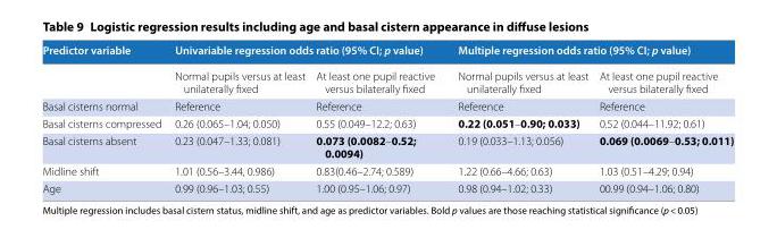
<table><thead><tr><td rowspan="2">Predictor variable</td><td colspan="2">Univariable regression odds ratio (95% CI; p value)</td><td colspan="2">Multiple regression odds ratio (95% CI; p value)</td></tr><tr><td>Normal pupils versus at least unilaterally fixed</td><td>At least one pupil reactive versus bilaterally fixed</td><td>Normal pupils versus at least unilaterally fixed</td><td>At least one pupil reactive versus bilaterally fixed</td></tr></thead><tbody><tr><td>Basal cisterns normal</td><td>Reference</td><td>Reference</td><td>Reference</td><td>Reference</td></tr><tr><td>Basal cisterns compressed</td><td>0.26 (0.065–1.04; 0.050)</td><td>0.55 (0.049–12.2; 0.63)</td><td>0.22 (0.051–0.90; 0.033)</td><td>0.52 (0.044–11.92; 0.61)</td></tr><tr><td>Basal cisterns absent</td><td>0.23 (0.047–1.33; 0.081)</td><td>0.073 (0.0082–0.52; 0.0094)</td><td>0.19 (0.033–1.13; 0.056)</td><td>0.069 (0.0069–0.53; 0.011)</td></tr><tr><td>Midline shift</td><td>1.01 (0.56–3.44, 0.986)</td><td>0.83(0.46–2.74; 0.589)</td><td>1.22 (0.66–4.66; 0.63)</td><td>1.03 (0.51–4.29; 0.94)</td></tr><tr><td>Age</td><td>0.99 (0.96–1.03; 0.55)</td><td>1.00 (0.95–1.06; 0.97)</td><td>0.98 (0.94–1.02; 0.33)</td><td>00.99 (0.94–1.06; 0.80)</td></tr></tbody></table>